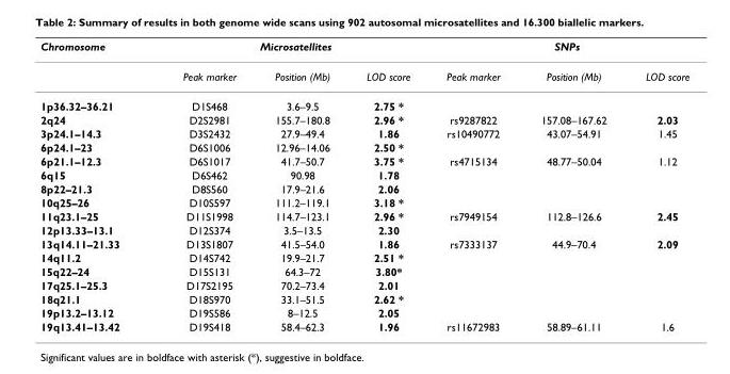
<table><thead><tr><td rowspan="2">Chromosome</td><td colspan="3">Microsatellites</td><td colspan="3">SNPs</td></tr><tr><td>Peak marker</td><td>Position (Mb)</td><td>LOD score</td><td>Peak marker</td><td>Position (Mb)</td><td>LOD score</td></tr></thead><tbody><tr><td>1p36.32–36.21</td><td>D1S468</td><td>3.6–9.5</td><td>2.75 *</td><td></td><td></td><td></td></tr><tr><td>2q24</td><td>D2S2981</td><td>155.7–180.8</td><td>2.96 *</td><td>rs9287822</td><td>157.08–167.62</td><td>2.03</td></tr><tr><td>3p24.1–14.3</td><td>D3S2432</td><td>27.9–49.4</td><td>1.86</td><td>rs10490772</td><td>43.07–54.91</td><td>1.45</td></tr><tr><td>6p24.1–23</td><td>D6S1006</td><td>12.96–14.06</td><td>2.50 *</td><td></td><td></td><td></td></tr><tr><td>6p21.1–12.3</td><td>D6S1017</td><td>41.7–50.7</td><td>3.75 *</td><td>rs4715134</td><td>48.77–50.04</td><td>1.12</td></tr><tr><td>6q15</td><td>D6S462</td><td>90.98</td><td>1.78</td><td></td><td></td><td></td></tr><tr><td>8p22–21.3</td><td>D8S560</td><td>17.9–21.6</td><td>2.06</td><td></td><td></td><td></td></tr><tr><td>10q25–26</td><td>D10S597</td><td>111.2–119.1</td><td>3.18 *</td><td></td><td></td><td></td></tr><tr><td>11q23.1–25</td><td>D11S1998</td><td>114.7–123.1</td><td>2.96 *</td><td>rs7949154</td><td>112.8–126.6</td><td>2.45</td></tr><tr><td>12p13.33–13.1</td><td>D12S374</td><td>3.5–13.5</td><td>2.30</td><td></td><td></td><td></td></tr><tr><td>13q14.11–21.33</td><td>D13S1807</td><td>41.5–54.0</td><td>1.86</td><td>rs7333137</td><td>44.9–70.4</td><td>2.09</td></tr><tr><td>14q11.2</td><td>D14S742</td><td>19.9–21.7</td><td>2.51 *</td><td></td><td></td><td></td></tr><tr><td>15q22–24</td><td>D15S131</td><td>64.3–72</td><td>3.80*</td><td></td><td></td><td></td></tr><tr><td>17q25.1–25.3</td><td>D17S2195</td><td>70.2–73.4</td><td>2.01</td><td></td><td></td><td></td></tr><tr><td>18q21.1</td><td>D18S970</td><td>33.1–51.5</td><td>2.62 *</td><td></td><td></td><td></td></tr><tr><td>19p13.2–13.12</td><td>D19S586</td><td>8–12.5</td><td>2.05</td><td></td><td></td><td></td></tr><tr><td>19q13.41–13.42</td><td>D19S418</td><td>58.4–62.3</td><td>1.96</td><td>rs11672983</td><td>58.89–61.11</td><td>1.6</td></tr></tbody></table>